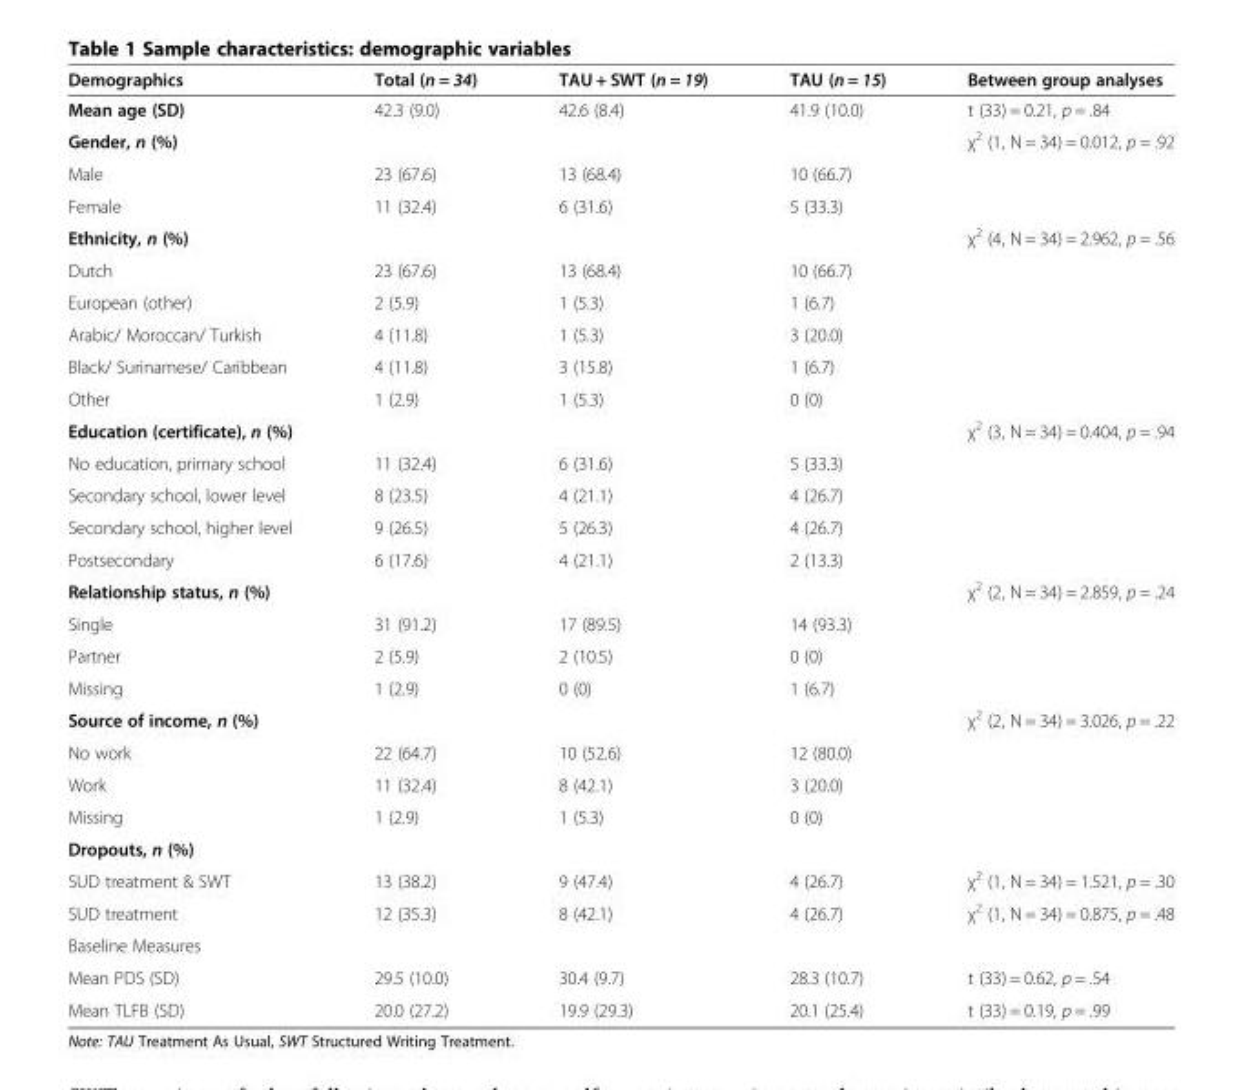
<table><thead><tr><td>Demographics</td><td>Total (n = 34)</td><td>TAU + SWT (n = 19)</td><td>TAU (n = 15)</td><td>Between group analyses</td></tr></thead><tbody><tr><td>Mean age (SD)</td><td>42.3 (9.0)</td><td>42.6 (8.4)</td><td>41.9 (10.0)</td><td>t (33) = 0.21, p = .84</td></tr><tr><td>Gender, n (%)</td><td></td><td></td><td></td><td>χ<sup>2</sup> (1, N = 34) = 0.012, p = .92</td></tr><tr><td>Male</td><td>23 (67.6)</td><td>13 (68.4)</td><td>10 (66.7)</td><td></td></tr><tr><td>Female</td><td>11 (32.4)</td><td>6 (31.6)</td><td>5 (33.3)</td><td></td></tr><tr><td>Ethnicity, n (%)</td><td></td><td></td><td></td><td>χ<sup>2</sup> (4, N = 34) = 2.962, p = .56</td></tr><tr><td>Dutch</td><td>23 (67.6)</td><td>13 (68.4)</td><td>10 (66.7)</td><td></td></tr><tr><td>European (other)</td><td>2 (5.9)</td><td>1 (5.3)</td><td>1 (6.7)</td><td></td></tr><tr><td>Arabic/ Moroccan/ Turkish</td><td>4 (11.8)</td><td>1 (5.3)</td><td>3 (20.0)</td><td></td></tr><tr><td>Black/ Surinamese/ Caribbean</td><td>4 (11.8)</td><td>3 (15.8)</td><td>1 (6.7)</td><td></td></tr><tr><td>Other</td><td>1 (2.9)</td><td>1 (5.3)</td><td>0 (0)</td><td></td></tr><tr><td>Education (certificate), n (%)</td><td></td><td></td><td></td><td>χ<sup>2</sup> (3, N = 34) = 0.404, p = .94</td></tr><tr><td>No education, primary school</td><td>11 (32.4)</td><td>6 (31.6)</td><td>5 (33.3)</td><td></td></tr><tr><td>Secondary school, lower level</td><td>8 (23.5)</td><td>4 (21.1)</td><td>4 (26.7)</td><td></td></tr><tr><td>Secondary school, higher level</td><td>9 (26.5)</td><td>5 (26.3)</td><td>4 (26.7)</td><td></td></tr><tr><td>Postsecondary</td><td>6 (17.6)</td><td>4 (21.1)</td><td>2 (13.3)</td><td></td></tr><tr><td>Relationship status, n (%)</td><td></td><td></td><td></td><td>χ<sup>2</sup> (2, N = 34) = 2.859, p = .24</td></tr><tr><td>Single</td><td>31 (91.2)</td><td>17 (89.5)</td><td>14 (93.3)</td><td></td></tr><tr><td>Partner</td><td>2 (5.9)</td><td>2 (10.5)</td><td>0 (0)</td><td></td></tr><tr><td>Missing</td><td>1 (2.9)</td><td>0 (0)</td><td>1 (6.7)</td><td></td></tr><tr><td>Source of income, n (%)</td><td></td><td></td><td></td><td>χ<sup>2</sup> (2, N = 34) = 3.026, p = .22</td></tr><tr><td>No work</td><td>22 (64.7)</td><td>10 (52.6)</td><td>12 (80.0)</td><td></td></tr><tr><td>Work</td><td>11 (32.4)</td><td>8 (42.1)</td><td>3 (20.0)</td><td></td></tr><tr><td>Missing</td><td>1 (2.9)</td><td>1 (5.3)</td><td>0 (0)</td><td></td></tr><tr><td colspan="5">Dropouts, n (%)</td></tr><tr><td>SUD treatment &amp; SWT</td><td>13 (38.2)</td><td>9 (47.4)</td><td>4 (26.7)</td><td>χ<sup>2</sup> (1, N = 34) = 1.521, p = .30</td></tr><tr><td>SUD treatment</td><td>12 (35.3)</td><td>8 (42.1)</td><td>4 (26.7)</td><td>χ<sup>2</sup> (1, N = 34) = 0.875, p = .48</td></tr><tr><td colspan="5">Baseline Measures</td></tr><tr><td>Mean PDS (SD)</td><td>29.5 (10.0)</td><td>30.4 (9.7)</td><td>28.3 (10.7)</td><td>t (33) = 0.62, p = .54</td></tr><tr><td>Mean TLFB (SD)</td><td>20.0 (27.2)</td><td>19.9 (29.3)</td><td>20.1 (25.4)</td><td>t (33) = 0.19, p = .99</td></tr></tbody></table>